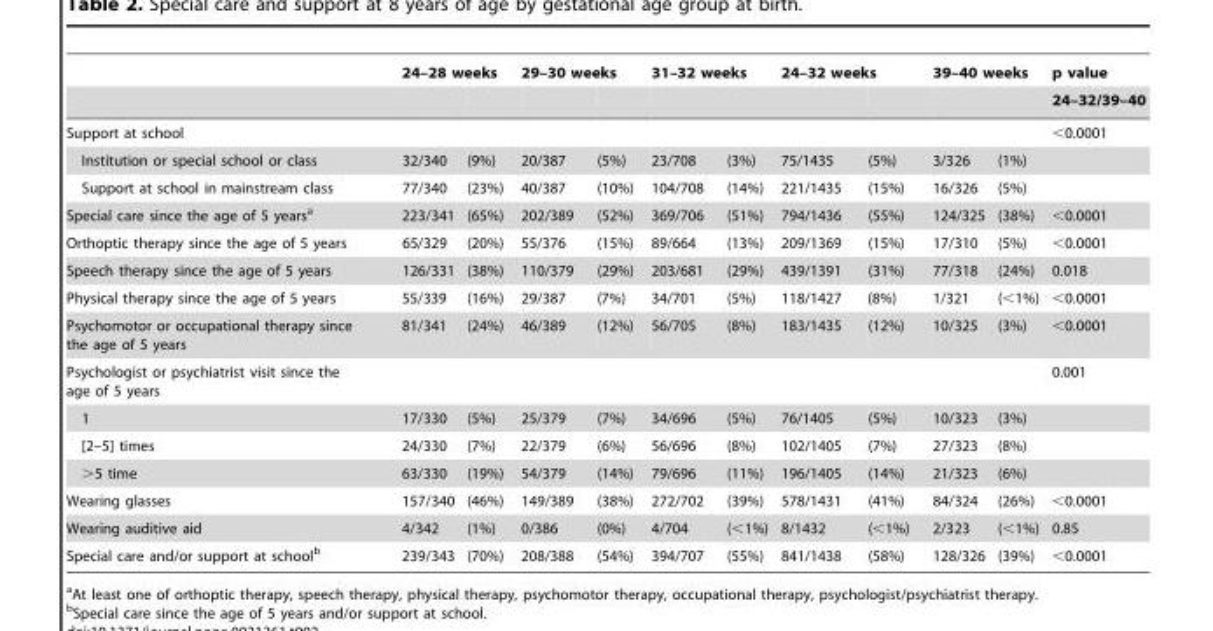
<table><thead><tr><td rowspan="2"></td><td colspan="2">24–28 weeks</td><td colspan="2">29–30 weeks</td><td colspan="2">31–32 weeks</td><td colspan="2">24–32 weeks</td><td colspan="2">39–40 weeks</td><td rowspan="2">p value 24–32/39–40</td></tr><tr><td></td><td></td><td></td><td></td><td></td><td></td><td></td><td></td><td></td><td></td></tr></thead><tbody><tr><td>Support at school</td><td></td><td></td><td></td><td></td><td></td><td></td><td></td><td></td><td></td><td></td><td>&lt;0.0001</td></tr><tr><td>Institution or special school or class</td><td>32/340</td><td>(9%)</td><td>20/387</td><td>(5%)</td><td>23/708</td><td>(3%)</td><td>75/1435</td><td>(5%)</td><td>3/326</td><td>(1%)</td><td></td></tr><tr><td>Support at school in mainstream class</td><td>77/340</td><td>(23%)</td><td>40/387</td><td>(10%)</td><td>104/708</td><td>(14%)</td><td>221/1435</td><td>(15%)</td><td>16/326</td><td>(5%)</td><td></td></tr><tr><td>Special care since the age of 5 years<sup>a</sup></td><td>223/341</td><td>(65%)</td><td>202/389</td><td>(52%)</td><td>369/706</td><td>(51%)</td><td>794/1436</td><td>(55%)</td><td>124/325</td><td>(38%)</td><td>&lt;0.0001</td></tr><tr><td>Orthoptic therapy since the age of 5 years</td><td>65/329</td><td>(20%)</td><td>55/376</td><td>(15%)</td><td>89/664</td><td>(13%)</td><td>209/1369</td><td>(15%)</td><td>17/310</td><td>(5%)</td><td>&lt;0.0001</td></tr><tr><td>Speech therapy since the age of 5 years</td><td>126/331</td><td>(38%)</td><td>110/379</td><td>(29%)</td><td>203/681</td><td>(29%)</td><td>439/1391</td><td>(31%)</td><td>77/318</td><td>(24%)</td><td>0.018</td></tr><tr><td>Physical therapy since the age of 5 years</td><td>55/339</td><td>(16%)</td><td>29/387</td><td>(7%)</td><td>34/701</td><td>(5%)</td><td>118/1427</td><td>(8%)</td><td>1/321</td><td>(&lt;1%)</td><td>&lt;0.0001</td></tr><tr><td>Psychomotor or occupational therapy since the age of 5 years</td><td>81/341</td><td>(24%)</td><td>46/389</td><td>(12%)</td><td>56/705</td><td>(8%)</td><td>183/1435</td><td>(12%)</td><td>10/325</td><td>(3%)</td><td>&lt;0.0001</td></tr><tr><td>Psychologist or psychiatrist visit since the age of 5 years</td><td></td><td></td><td></td><td></td><td></td><td></td><td></td><td></td><td></td><td></td><td>0.001</td></tr><tr><td>1</td><td>17/330</td><td>(5%)</td><td>25/379</td><td>(7%)</td><td>34/696</td><td>(5%)</td><td>76/1405</td><td>(5%)</td><td>10/323</td><td>(3%)</td><td></td></tr><tr><td>[2–5] times</td><td>24/330</td><td>(7%)</td><td>22/379</td><td>(6%)</td><td>56/696</td><td>(8%)</td><td>102/1405</td><td>(7%)</td><td>27/323</td><td>(8%)</td><td></td></tr><tr><td>&gt;5 time</td><td>63/330</td><td>(19%)</td><td>54/379</td><td>(14%)</td><td>79/696</td><td>(11%)</td><td>196/1405</td><td>(14%)</td><td>21/323</td><td>(6%)</td><td></td></tr><tr><td>Wearing glasses</td><td>157/340</td><td>(46%)</td><td>149/389</td><td>(38%)</td><td>272/702</td><td>(39%)</td><td>578/1431</td><td>(41%)</td><td>84/324</td><td>(26%)</td><td>&lt;0.0001</td></tr><tr><td>Wearing auditive aid</td><td>4/342</td><td>(1%)</td><td>0/386</td><td>(0%)</td><td>4/704</td><td>(&lt;1%)</td><td>8/1432</td><td>(&lt;1%)</td><td>2/323</td><td>(&lt;1%)</td><td>0.85</td></tr><tr><td>Special care and/or support at school<sup>b</sup></td><td>239/343</td><td>(70%)</td><td>208/388</td><td>(54%)</td><td>394/707</td><td>(55%)</td><td>841/1438</td><td>(58%)</td><td>128/326</td><td>(39%)</td><td>&lt;0.0001</td></tr></tbody></table>